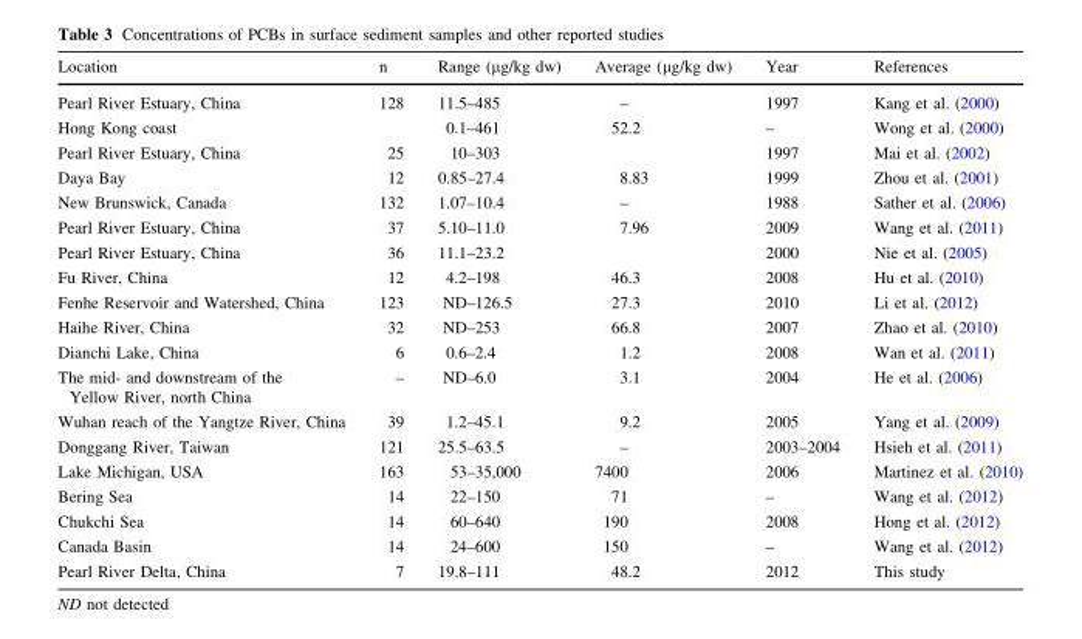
<table><thead><tr><td>Location</td><td>n</td><td>Range (μg/kg dw)</td><td>Average (μg/kg dw)</td><td>Year</td><td>References</td></tr></thead><tbody><tr><td>Pearl River Estuary, China</td><td>128</td><td>11.5–485</td><td>–</td><td>1997</td><td>Kang et al. (2000)</td></tr><tr><td>Hong Kong coast</td><td></td><td>0.1–461</td><td>52.2</td><td>–</td><td>Wong et al. (2000)</td></tr><tr><td>Pearl River Estuary, China</td><td>25</td><td>10–303</td><td></td><td>1997</td><td>Mai et al. (2002)</td></tr><tr><td>Daya Bay</td><td>12</td><td>0.85–27.4</td><td>8.83</td><td>1999</td><td>Zhou et al. (2001)</td></tr><tr><td>New Brunswick, Canada</td><td>132</td><td>1.07–10.4</td><td>–</td><td>1988</td><td>Sather et al. (2006)</td></tr><tr><td>Pearl River Estuary, China</td><td>37</td><td>5.10–11.0</td><td>7.96</td><td>2009</td><td>Wang et al. (2011)</td></tr><tr><td>Pearl River Estuary, China</td><td>36</td><td>11.1–23.2</td><td></td><td>2000</td><td>Nie et al. (2005)</td></tr><tr><td>Fu River, China</td><td>12</td><td>4.2–198</td><td>46.3</td><td>2008</td><td>Hu et al. (2010)</td></tr><tr><td>Fenhe Reservoir and Watershed, China</td><td>123</td><td>ND–126.5</td><td>27.3</td><td>2010</td><td>Li et al. (2012)</td></tr><tr><td>Haihe River, China</td><td>32</td><td>ND–253</td><td>66.8</td><td>2007</td><td>Zhao et al. (2010)</td></tr><tr><td>Dianchi Lake, China</td><td>6</td><td>0.6–2.4</td><td>1.2</td><td>2008</td><td>Wan et al. (2011)</td></tr><tr><td>The mid- and downstream of the Yellow River, north China</td><td>–</td><td>ND–6.0</td><td>3.1</td><td>2004</td><td>He et al. (2006)</td></tr><tr><td>Wuhan reach of the Yangtze River, China</td><td>39</td><td>1.2–45.1</td><td>9.2</td><td>2005</td><td>Yang et al. (2009)</td></tr><tr><td>Donggang River, Taiwan</td><td>121</td><td>25.5–63.5</td><td>–</td><td>2003–2004</td><td>Hsieh et al. (2011)</td></tr><tr><td>Lake Michigan, USA</td><td>163</td><td>53–35,000</td><td>7400</td><td>2006</td><td>Martinez et al. (2010)</td></tr><tr><td>Bering Sea</td><td>14</td><td>22–150</td><td>71</td><td>–</td><td>Wang et al. (2012)</td></tr><tr><td>Chukchi Sea</td><td>14</td><td>60–640</td><td>190</td><td>2008</td><td>Hong et al. (2012)</td></tr><tr><td>Canada Basin</td><td>14</td><td>24–600</td><td>150</td><td>–</td><td>Wang et al. (2012)</td></tr><tr><td>Pearl River Delta, China</td><td>7</td><td>19.8–111</td><td>48.2</td><td>2012</td><td>This study</td></tr></tbody></table>